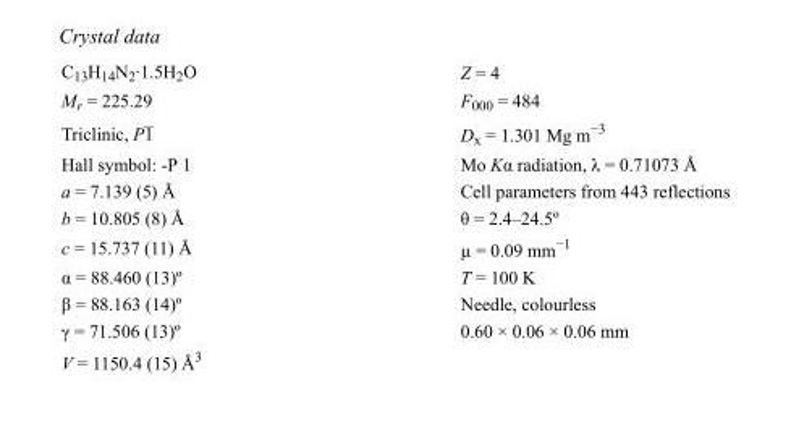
<table><tbody><tr><td>C<sub>13</sub>H<sub>14</sub>N<sub>2</sub>·1.5H<sub>2</sub>O</td><td>Z = 4</td></tr><tr><td>M<sub>r</sub> = 225.29</td><td>F000 = 484</td></tr><tr><td>Triclinic, P1</td><td>D<sub>x</sub> = 1.301 Mg m<sup>−3</sup></td></tr><tr><td>Hall symbol: -P 1</td><td>Mo Kα radiation, λ = 0.71073 Å</td></tr><tr><td>a = 7.139 (5) Å</td><td>Cell parameters from 443 reflections</td></tr><tr><td>b = 10.805 (8) Å</td><td>θ = 2.4–24.5º</td></tr><tr><td>c = 15.737 (11) Å</td><td>µ = 0.09 mm<sup>−1</sup></td></tr><tr><td>α = 88.460 (13)º</td><td>T = 100 K</td></tr><tr><td>β = 88.163 (14)º</td><td>Needle, colourless</td></tr><tr><td>γ = 71.506 (13)º</td><td>0.60 × 0.06 × 0.06 mm</td></tr><tr><td>V = 1150.4 (15) Å<sup>3</sup></td><td></td></tr></tbody></table>